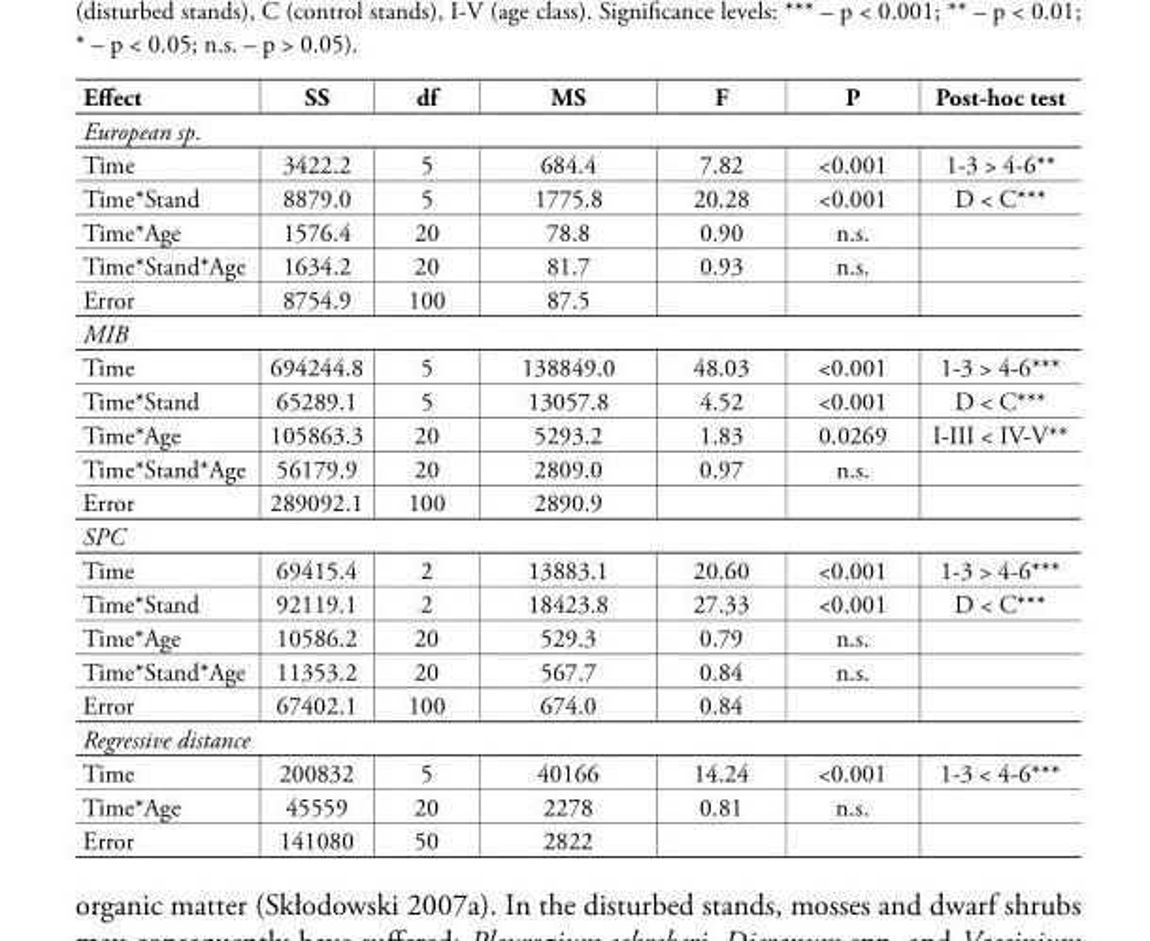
<table><thead><tr><td>Effect</td><td>SS</td><td>df</td><td>MS</td><td>F</td><td>P</td><td>Post-hoc test</td></tr></thead><tbody><tr><td colspan="7">European sp.</td></tr><tr><td>Time</td><td>3422.2</td><td>5</td><td>684.4</td><td>7.82</td><td>&lt;0.001</td><td>1-3 &gt; 4-6**</td></tr><tr><td>Time*Stand</td><td>8879.0</td><td>5</td><td>1775.8</td><td>20.28</td><td>&lt;0.001</td><td>D &lt; C***</td></tr><tr><td>Time*Age</td><td>1576.4</td><td>20</td><td>78.8</td><td>0.90</td><td>n.s.</td><td></td></tr><tr><td>Time*Stand*Age</td><td>1634.2</td><td>20</td><td>81.7</td><td>0.93</td><td>n.s.</td><td></td></tr><tr><td>Error</td><td>8754.9</td><td>100</td><td>87.5</td><td></td><td></td><td></td></tr><tr><td colspan="7">MIB</td></tr><tr><td>Time</td><td>694244.8</td><td>5</td><td>138849.0</td><td>48.03</td><td>&lt;0.001</td><td>1-3 &gt; 4-6***</td></tr><tr><td>Time*Stand</td><td>65289.1</td><td>5</td><td>13057.8</td><td>4.52</td><td>&lt;0.001</td><td>D &lt; C***</td></tr><tr><td>Time*Age</td><td>105863.3</td><td>20</td><td>5293.2</td><td>1.83</td><td>0.0269</td><td>I-III &lt; IV-V**</td></tr><tr><td>Time*Stand*Age</td><td>56179.9</td><td>20</td><td>2809.0</td><td>0.97</td><td>n.s.</td><td></td></tr><tr><td>Error</td><td>289092.1</td><td>100</td><td>2890.9</td><td></td><td></td><td></td></tr><tr><td colspan="7">SPC</td></tr><tr><td>Time</td><td>69415.4</td><td>2</td><td>13883.1</td><td>20.60</td><td>&lt;0.001</td><td>1-3 &gt; 4-6***</td></tr><tr><td>Time*Stand</td><td>92119.1</td><td>2</td><td>18423.8</td><td>27.33</td><td>&lt;0.001</td><td>D &lt; C***</td></tr><tr><td>Time*Age</td><td>10586.2</td><td>20</td><td>529.3</td><td>0.79</td><td>n.s.</td><td></td></tr><tr><td>Time*Stand*Age</td><td>11353.2</td><td>20</td><td>567.7</td><td>0.84</td><td>n.s.</td><td></td></tr><tr><td>Error</td><td>67402.1</td><td>100</td><td>674.0</td><td>0.84</td><td></td><td></td></tr><tr><td colspan="7">Regressive distance</td></tr><tr><td>Time</td><td>200832</td><td>5</td><td>40166</td><td>14.24</td><td>&lt;0.001</td><td>1-3 &lt; 4-6***</td></tr><tr><td>Time*Age</td><td>45559</td><td>20</td><td>2278</td><td>0.81</td><td>n.s.</td><td></td></tr><tr><td>Error</td><td>141080</td><td>50</td><td>2822</td><td></td><td></td><td></td></tr></tbody></table>